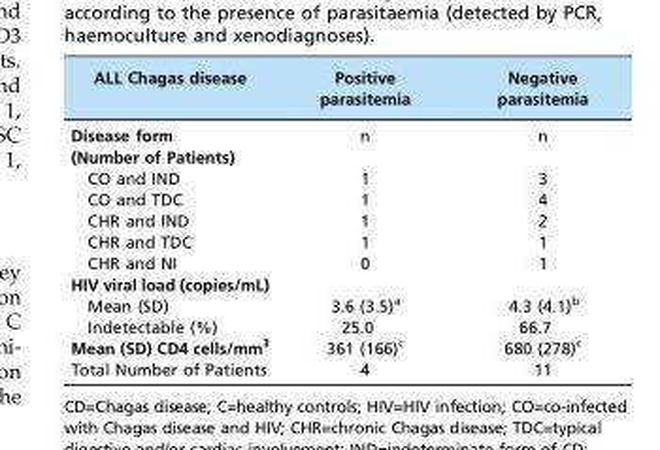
<table><thead><tr><td>ALL Chagas disease</td><td>Positive parasitemia</td><td>Negative parasitemia</td></tr></thead><tbody><tr><td>Disease form (Number of Patients)</td><td>n</td><td>n</td></tr><tr><td>CO and IND</td><td>1</td><td>3</td></tr><tr><td>CO and TDC</td><td>1</td><td>4</td></tr><tr><td>CHR and IND</td><td>1</td><td>2</td></tr><tr><td>CHR and TDC</td><td>1</td><td>1</td></tr><tr><td>CHR and NI</td><td>0</td><td>1</td></tr><tr><td colspan="3">HIV viral load (copies/mL)</td></tr><tr><td>Mean (SD)</td><td>3.6 (3.5)<sup>a</sup></td><td>4.3 (4.1)<sup>b</sup></td></tr><tr><td>Indetectable (%)</td><td>25.0</td><td>66.7</td></tr><tr><td>Mean (SD) CD4 cells/mm<sup>3</sup></td><td>361 (166)<sup>c</sup></td><td>680 (278)<sup>c</sup></td></tr><tr><td>Total Number of Patients</td><td>4</td><td>11</td></tr></tbody></table>